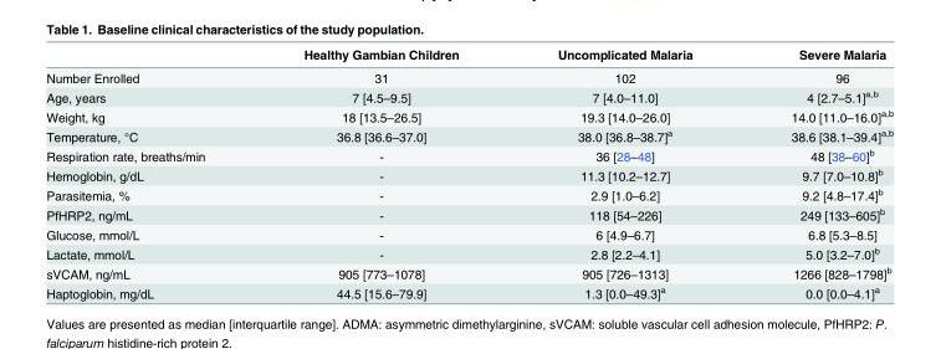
<table><thead><tr><td></td><td>Healthy Gambian Children</td><td>Uncomplicated Malaria</td><td>Severe Malaria</td></tr></thead><tbody><tr><td>Number Enrolled</td><td>31</td><td>102</td><td>96</td></tr><tr><td>Age, years</td><td>7 [4.5–9.5]</td><td>7 [4.0–11.0]</td><td>4 [2.7–5.1]<sup>a,b</sup></td></tr><tr><td>Weight, kg</td><td>18 [13.5–26.5]</td><td>19.3 [14.0–26.0]</td><td>14.0 [11.0–16.0]<sup>a,b</sup></td></tr><tr><td>Temperature, °C</td><td>36.8 [36.6–37.0]</td><td>38.0 [36.8–38.7]<sup>a</sup></td><td>38.6 [38.1–39.4]<sup>a,b</sup></td></tr><tr><td>Respiration rate, breaths/min</td><td>-</td><td>36 [28–48]</td><td>48 [38–60]<sup>b</sup></td></tr><tr><td>Hemoglobin, g/dL</td><td>-</td><td>11.3 [10.2–12.7]</td><td>9.7 [7.0–10.8]<sup>b</sup></td></tr><tr><td>Parasitemia, %</td><td>-</td><td>2.9 [1.0–6.2]</td><td>9.2 [4.8–17.4]<sup>b</sup></td></tr><tr><td>PfHRP2, ng/mL</td><td>-</td><td>118 [54–226]</td><td>249 [133–605]<sup>b</sup></td></tr><tr><td>Glucose, mmol/L</td><td>-</td><td>6 [4.9–6.7]</td><td>6.8 [5.3–8.5]</td></tr><tr><td>Lactate, mmol/L</td><td>-</td><td>2.8 [2.2–4.1]</td><td>5.0 [3.2–7.0]<sup>b</sup></td></tr><tr><td>sVCAM, ng/mL</td><td>905 [773–1078]</td><td>905 [726–1313]</td><td>1266 [828–1798]<sup>b</sup></td></tr><tr><td>Haptoglobin, mg/dL</td><td>44.5 [15.6–79.9]</td><td>1.3 [0.0–49.3]<sup>a</sup></td><td>0.0 [0.0–4.1]<sup>a</sup></td></tr></tbody></table>